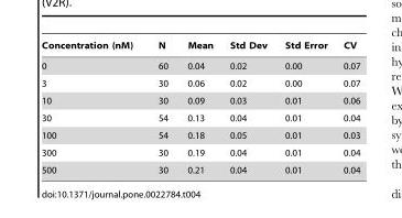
<table><thead><tr><td>Concentration (nM)</td><td>N</td><td>Mean</td><td>Std Dev</td><td>Std Error</td><td>CV</td></tr></thead><tbody><tr><td>0</td><td>60</td><td>0.04</td><td>0.02</td><td>0.00</td><td>0.07</td></tr><tr><td>3</td><td>30</td><td>0.06</td><td>0.02</td><td>0.00</td><td>0.07</td></tr><tr><td>10</td><td>30</td><td>0.09</td><td>0.03</td><td>0.01</td><td>0.06</td></tr><tr><td>30</td><td>54</td><td>0.13</td><td>0.04</td><td>0.01</td><td>0.04</td></tr><tr><td>100</td><td>54</td><td>0.18</td><td>0.05</td><td>0.01</td><td>0.03</td></tr><tr><td>300</td><td>30</td><td>0.19</td><td>0.04</td><td>0.01</td><td>0.04</td></tr><tr><td>500</td><td>30</td><td>0.21</td><td>0.04</td><td>0.01</td><td>0.04</td></tr></tbody></table>